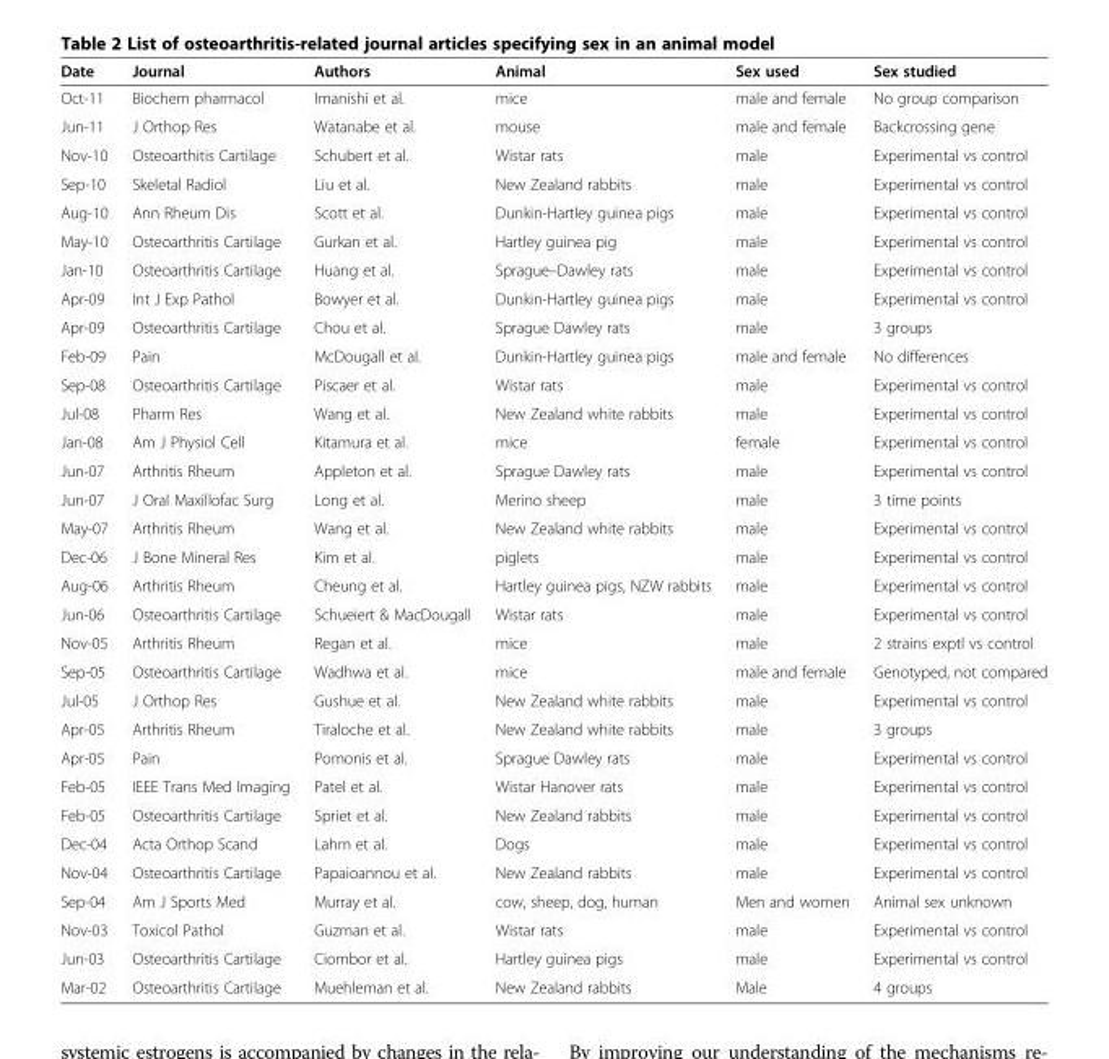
<table><thead><tr><td>Date</td><td>Journal</td><td>Authors</td><td>Animal</td><td>Sex used</td><td>Sex studied</td></tr></thead><tbody><tr><td>Oct-11</td><td>Biochem pharmacol</td><td>Imanishi et al.</td><td>mice</td><td>male and female</td><td>No group comparison</td></tr><tr><td>Jun-11</td><td>J Orthop Res</td><td>Watanabe et al.</td><td>mouse</td><td>male and female</td><td>Backcrossing gene</td></tr><tr><td>Nov-10</td><td>Osteoarthitis Cartilage</td><td>Schubert et al.</td><td>Wistar rats</td><td>male</td><td>Experimental vs control</td></tr><tr><td>Sep-10</td><td>Skeletal Radiol</td><td>Liu et al.</td><td>New Zealand rabbits</td><td>male</td><td>Experimental vs control</td></tr><tr><td>Aug-10</td><td>Ann Rheum Dis</td><td>Scott et al.</td><td>Dunkin-Hartley guinea pigs</td><td>male</td><td>Experimental vs control</td></tr><tr><td>May-10</td><td>Osteoarthritis Cartilage</td><td>Gurkan et al.</td><td>Hartley guinea pig</td><td>male</td><td>Experimental vs control</td></tr><tr><td>Jan-10</td><td>Osteoarthritis Cartilage</td><td>Huang et al.</td><td>Sprague–Dawley rats</td><td>male</td><td>Experimental vs control</td></tr><tr><td>Apr-09</td><td>Int J Exp Pathol</td><td>Bowyer et al.</td><td>Dunkin-Hartley guinea pigs</td><td>male</td><td>Experimental vs control</td></tr><tr><td>Apr-09</td><td>Osteoarthritis Cartilage</td><td>Chou et al.</td><td>Sprague Dawley rats</td><td>male</td><td>3 groups</td></tr><tr><td>Feb-09</td><td>Pain</td><td>McDougall et al.</td><td>Dunkin-Hartley guinea pigs</td><td>male and female</td><td>No differences</td></tr><tr><td>Sep-08</td><td>Osteoarthritis Cartilage</td><td>Piscaer et al.</td><td>Wistar rats</td><td>male</td><td>Experimental vs control</td></tr><tr><td>Jul-08</td><td>Pharm Res</td><td>Wang et al.</td><td>New Zealand white rabbits</td><td>male</td><td>Experimental vs control</td></tr><tr><td>Jan-08</td><td>Am J Physiol Cell</td><td>Kitamura et al.</td><td>mice</td><td>female</td><td>Experimental vs control</td></tr><tr><td>Jun-07</td><td>Arthritis Rheum</td><td>Appleton et al.</td><td>Sprague Dawley rats</td><td>male</td><td>Experimental vs control</td></tr><tr><td>Jun-07</td><td>J Oral Maxillofac Surg</td><td>Long et al.</td><td>Merino sheep</td><td>male</td><td>3 time points</td></tr><tr><td>May-07</td><td>Arthritis Rheum</td><td>Wang et al.</td><td>New Zealand white rabbits</td><td>male</td><td>Experimental vs control</td></tr><tr><td>Dec-06</td><td>J Bone Mineral Res</td><td>Kim et al.</td><td>piglets</td><td>male</td><td>Experimental vs control</td></tr><tr><td>Aug-06</td><td>Arthritis Rheum</td><td>Cheung et al.</td><td>Hartley guinea pigs, NZW rabbits</td><td>male</td><td>Experimental vs control</td></tr><tr><td>Jun-06</td><td>Osteoarthritis Cartilage</td><td>Schueiert &amp; MacDougall</td><td>Wistar rats</td><td>male</td><td>Experimental vs control</td></tr><tr><td>Nov-05</td><td>Arthritis Rheum</td><td>Regan et al.</td><td>mice</td><td>male</td><td>2 strains exptl vs control</td></tr><tr><td>Sep-05</td><td>Osteoarthritis Cartilage</td><td>Wadhwa et al.</td><td>mice</td><td>male and female</td><td>Genotyped, not compared</td></tr><tr><td>Jul-05</td><td>J Orthop Res</td><td>Gushue et al.</td><td>New Zealand white rabbits</td><td>male</td><td>Experimental vs control</td></tr><tr><td>Apr-05</td><td>Arthritis Rheum</td><td>Tiraloche et al.</td><td>New Zealand white rabbits</td><td>male</td><td>3 groups</td></tr><tr><td>Apr-05</td><td>Pain</td><td>Pomonis et al.</td><td>Sprague Dawley rats</td><td>male</td><td>Experimental vs control</td></tr><tr><td>Feb-05</td><td>IEEE Trans Med Imaging</td><td>Patel et al.</td><td>Wistar Hanover rats</td><td>male</td><td>Experimental vs control</td></tr><tr><td>Feb-05</td><td>Osteoarthritis Cartilage</td><td>Spriet et al.</td><td>New Zealand rabbits</td><td>male</td><td>Experimental vs control</td></tr><tr><td>Dec-04</td><td>Acta Orthop Scand</td><td>Lahm et al.</td><td>Dogs</td><td>male</td><td>Experimental vs control</td></tr><tr><td>Nov-04</td><td>Osteoarthritis Cartilage</td><td>Papaioannou et al.</td><td>New Zealand rabbits</td><td>male</td><td>Experimental vs control</td></tr><tr><td>Sep-04</td><td>Am J Sports Med</td><td>Murray et al.</td><td>cow, sheep, dog, human</td><td>Men and women</td><td>Animal sex unknown</td></tr><tr><td>Nov-03</td><td>Toxicol Pathol</td><td>Guzman et al.</td><td>Wistar rats</td><td>male</td><td>Experimental vs control</td></tr><tr><td>Jun-03</td><td>Osteoarthritis Cartilage</td><td>Ciombor et al.</td><td>Hartley guinea pigs</td><td>male</td><td>Experimental vs control</td></tr><tr><td>Mar-02</td><td>Osteoarthritis Cartilage</td><td>Muehleman et al.</td><td>New Zealand rabbits</td><td>Male</td><td>4 groups</td></tr></tbody></table>